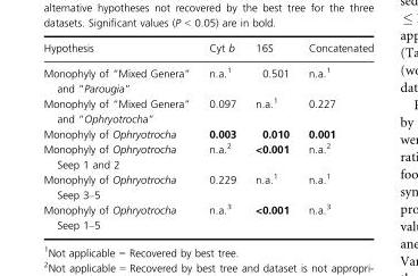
<table><thead><tr><td>Hypothesis</td><td>Cyt b</td><td>16S</td><td>Concatenated</td></tr></thead><tbody><tr><td>Monophyly of “Mixed Genera” and “Parougia”</td><td>n.a.<sup>1</sup></td><td>0.501</td><td>n.a.<sup>1</sup></td></tr><tr><td>Monophyly of “Mixed Genera” and “Ophryotrocha”</td><td>0.097</td><td>n.a.<sup>1</sup></td><td>0.227</td></tr><tr><td>Monophyly of Ophryotrocha</td><td>0.003</td><td>0.010</td><td>0.001</td></tr><tr><td>Monophyly of Ophryotrocha Seep 1 and 2</td><td>n.a.<sup>2</sup></td><td>&lt;0.001</td><td>n.a.<sup>2</sup></td></tr><tr><td>Monophyly of Ophryotrocha Seep 3–5</td><td>0.229</td><td>n.a.<sup>1</sup></td><td>n.a.<sup>1</sup></td></tr><tr><td>Monophyly of Ophryotrocha Seep 1–5</td><td>n.a.<sup>3</sup></td><td>&lt;0.001</td><td>n.a.<sup>3</sup></td></tr></tbody></table>